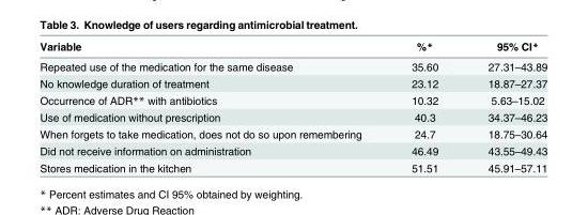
<table><thead><tr><td>Variable</td><td>%*</td><td>95% CI*</td></tr></thead><tbody><tr><td>Repeated use of the medication for the same disease</td><td>35.60</td><td>27.31–43.89</td></tr><tr><td>No knowledge duration of treatment</td><td>23.12</td><td>18.87–27.37</td></tr><tr><td>Occurrence of ADR** with antibiotics</td><td>10.32</td><td>5.63–15.02</td></tr><tr><td>Use of medication without prescription</td><td>40.3</td><td>34.37–46.23</td></tr><tr><td>When forgets to take medication, does not do so upon remembering</td><td>24.7</td><td>18.75–30.64</td></tr><tr><td>Did not receive information on administration</td><td>46.49</td><td>43.55–49.43</td></tr><tr><td>Stores medication in the kitchen</td><td>51.51</td><td>45.91–57.11</td></tr></tbody></table>